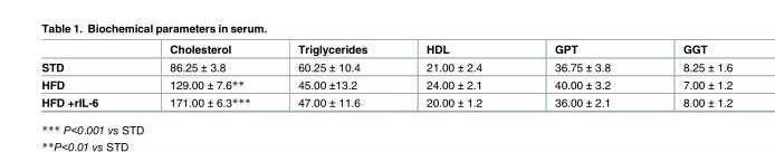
<table><thead><tr><td></td><td>Cholesterol</td><td>Triglycerides</td><td>HDL</td><td>GPT</td><td>GGT</td></tr></thead><tbody><tr><td>STD</td><td>86.25 ± 3.8</td><td>60.25 ± 10.4</td><td>21.00 ± 2.4</td><td>36.75 ± 3.8</td><td>8.25 ± 1.6</td></tr><tr><td>HFD</td><td>129.00 ± 7.6**</td><td>45.00 ±13.2</td><td>24.00 ± 2.1</td><td>40.00 ± 3.2</td><td>7.00 ± 1.2</td></tr><tr><td>HFD +rIL-6</td><td>171.00 ± 6.3***</td><td>47.00 ± 11.6</td><td>20.00 ± 1.2</td><td>36.00 ± 2.1</td><td>8.00 ± 1.2</td></tr></tbody></table>